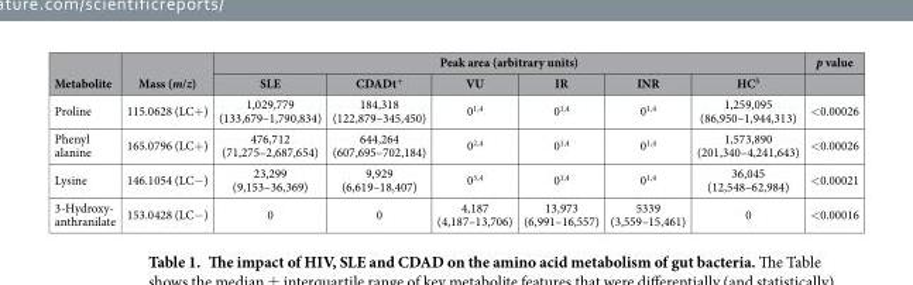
<table><thead><tr><td rowspan="2">Metabolite</td><td rowspan="2">Mass (m/z)</td><td colspan="6">Peak area (arbitrary units)</td><td rowspan="2">p value</td></tr><tr><td>SLE</td><td>CDADt<sup>+</sup></td><td>VU</td><td>IR</td><td>INR</td><td>HC<sup>5</sup></td></tr></thead><tbody><tr><td>Proline</td><td>115.0628 (LC+ )</td><td>1,029,779 (133,679–1,790,834)</td><td>184,318 (122,879–345,450)</td><td>0<sup>1</sup>,<sup>4</sup></td><td>0<sup>1</sup>,<sup>4</sup></td><td>0<sup>1</sup>,<sup>4</sup></td><td>1,259,095 (86,950–1,944,313)</td><td>&lt; 0.00026</td></tr><tr><td>Phenyl alanine</td><td>165.0796 (LC+)</td><td>476,712 (71,275–2,687,654)</td><td>644,264 (607,695–702,184)</td><td>0<sup>2</sup>,<sup>4</sup></td><td>0<sup>1</sup>,<sup>4</sup></td><td>0<sup>1</sup>,<sup>4</sup></td><td>1,573,890 (201,340–4,241,643)</td><td>&lt; 0.00026</td></tr><tr><td>Lysine</td><td>146.1054 (LC−)</td><td>23,299 (9,153–36,369)</td><td>9,929 (6,619–18,407)</td><td>0<sup>3</sup>,<sup>4</sup></td><td>0<sup>1</sup>,<sup>4</sup></td><td>0<sup>1</sup>,<sup>4</sup></td><td>36,045 (12,548–62,984)</td><td>&lt; 0.00021</td></tr><tr><td>3-Hydroxy- anthranilate</td><td>153.0428 (LC−)</td><td>0</td><td>0</td><td>4,187 (4,187–13,706)</td><td>13,973 (6,991–16,557)</td><td>5339 (3,559–15,461)</td><td>0</td><td>&lt; 0.00016</td></tr></tbody></table>